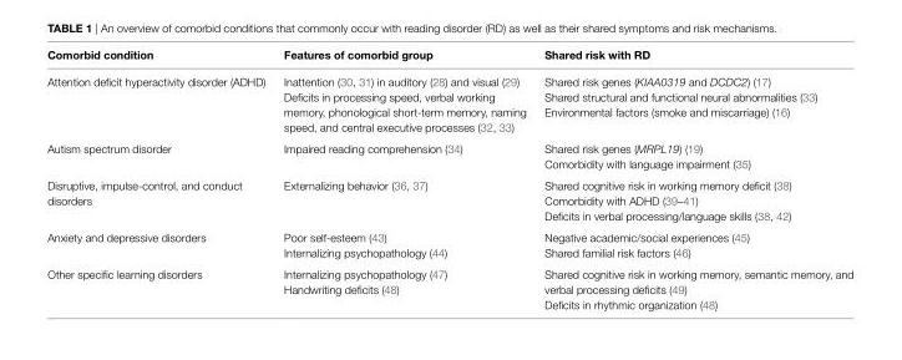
<table><thead><tr><td>Comorbid condition</td><td>Features of comorbid group</td><td>Shared risk with RD</td></tr></thead><tbody><tr><td>Attention deficit hyperactivity disorder (ADHD)</td><td>Inattention (30, 31) in auditory (28) and visual (29) Deficits in processing speed, verbal working memory, phonological short-term memory, naming speed, and central executive processes (32, 33)</td><td>Shared risk genes (KIAA0319 and DCDC2) (17) Shared structural and functional neural abnormalities (33) Environmental factors (smoke and miscarriage) (16)</td></tr><tr><td>Autism spectrum disorder</td><td>Impaired reading comprehension (34)</td><td>Shared risk genes (MRPL19) (19) Comorbidity with language impairment (35)</td></tr><tr><td>Disruptive, impulse-control, and conduct disorders</td><td>Externalizing behavior (36, 37)</td><td>Shared cognitive risk in working memory deficit (38) Comorbidity with ADHD (39–41) Deficits in verbal processing/language skills (38, 42)</td></tr><tr><td>Anxiety and depressive disorders</td><td>Poor self-esteem (43) Internalizing psychopathology (44)</td><td>Negative academic/social experiences (45) Shared familial risk factors (46)</td></tr><tr><td>Other specific learning disorders</td><td>Internalizing psychopathology (47) Handwriting deficits (48)</td><td>Shared cognitive risk in working memory, semantic memory, and verbal processing deficits (49) Deficits in rhythmic organization (48)</td></tr></tbody></table>